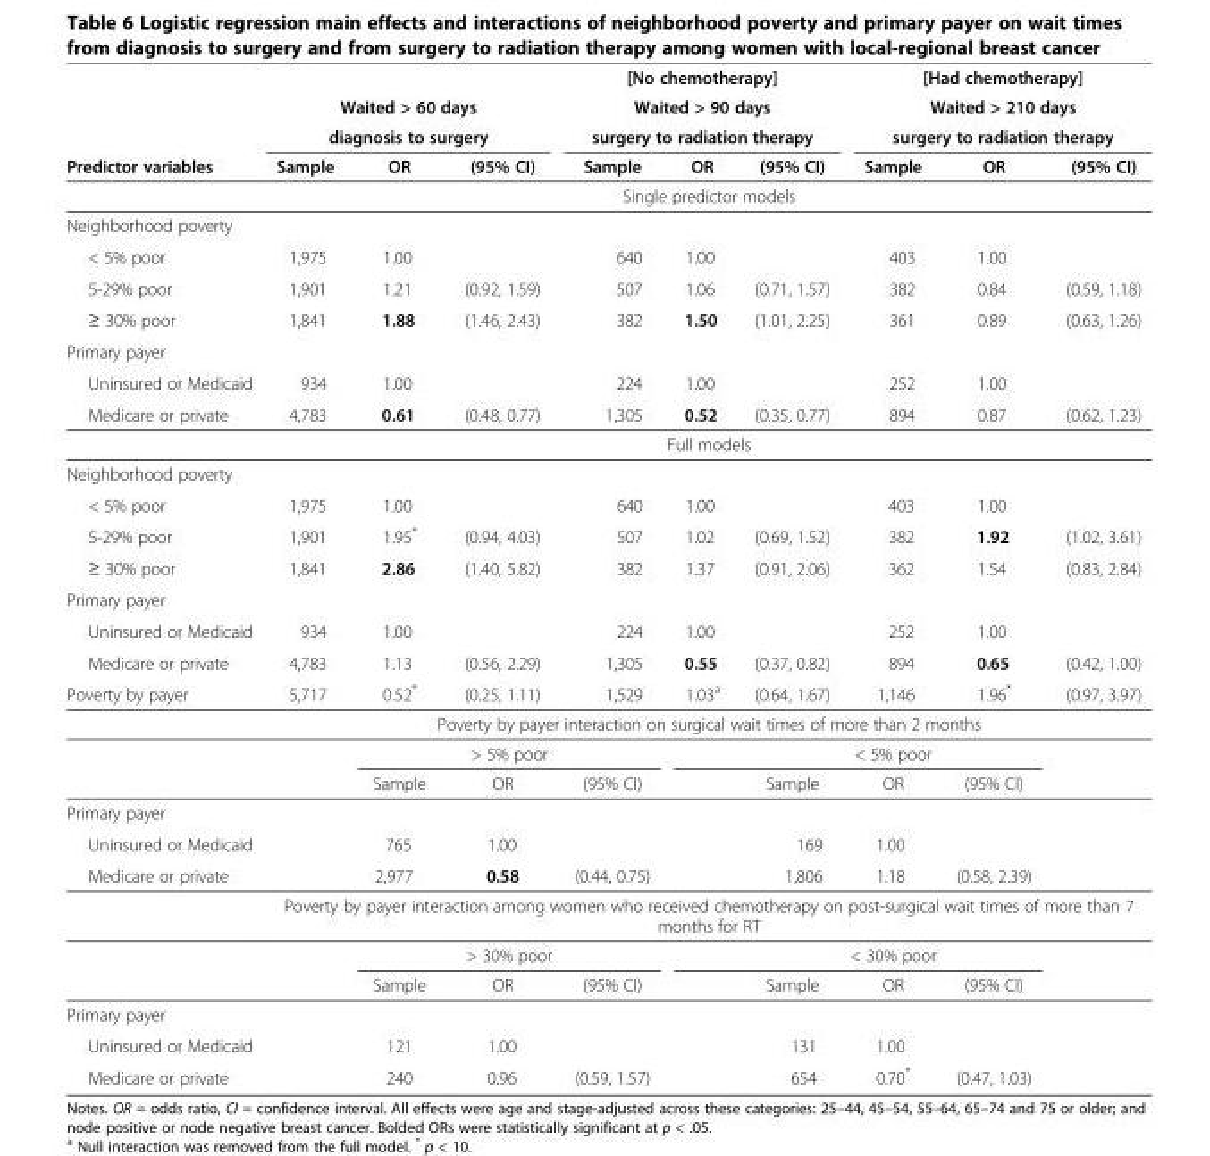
<table><thead><tr><td rowspan="4">Predictor variables</td><td></td><td></td><td></td><td rowspan="3" colspan="3">[No chemotherapy] Waited &gt; 90 days surgery to radiation therapy</td><td rowspan="3" colspan="3">[Had chemotherapy] Waited &gt; 210 days surgery to radiation therapy</td></tr><tr><td rowspan="2" colspan="3">Waited &gt; 60 days diagnosis to surgery</td></tr><tr></tr><tr><td>Sample</td><td>OR</td><td>(95% CI)</td><td>Sample</td><td>OR</td><td>(95% CI)</td><td>Sample</td><td>OR</td><td>(95% CI)</td></tr></thead><tbody><tr><td></td><td colspan="9">Single predictor models</td></tr><tr><td colspan="10">Neighborhood poverty</td></tr><tr><td>&lt; 5% poor</td><td>1,975</td><td>1.00</td><td></td><td>640</td><td>1.00</td><td></td><td>403</td><td>1.00</td><td></td></tr><tr><td>5-29% poor</td><td>1,901</td><td>1.21</td><td>(0.92, 1.59)</td><td>507</td><td>1.06</td><td>(0.71, 1.57)</td><td>382</td><td>0.84</td><td>(0.59, 1.18)</td></tr><tr><td>≥ 30% poor</td><td>1,841</td><td>1.88</td><td>(1.46, 2.43)</td><td>382</td><td>1.50</td><td>(1.01, 2.25)</td><td>361</td><td>0.89</td><td>(0.63, 1.26)</td></tr><tr><td colspan="10">Primary payer</td></tr><tr><td>Uninsured or Medicaid</td><td>934</td><td>1.00</td><td></td><td>224</td><td>1.00</td><td></td><td>252</td><td>1.00</td><td></td></tr><tr><td rowspan="2">Medicare or private</td><td>4,783</td><td>0.61</td><td>(0.48, 0.77)</td><td>1,305</td><td>0.52</td><td>(0.35, 0.77)</td><td>894</td><td>0.87</td><td>(0.62, 1.23)</td></tr><tr><td colspan="9">Full models</td></tr><tr><td colspan="10">Neighborhood poverty</td></tr><tr><td>&lt; 5% poor</td><td>1,975</td><td>1.00</td><td></td><td>640</td><td>1.00</td><td></td><td>403</td><td>1.00</td><td></td></tr><tr><td>5-29% poor</td><td>1,901</td><td>1.95*</td><td>(0.94, 4.03)</td><td>507</td><td>1.02</td><td>(0.69, 1.52)</td><td>382</td><td>1.92</td><td>(1.02, 3.61)</td></tr><tr><td>≥ 30% poor</td><td>1,841</td><td>2.86</td><td>(1.40, 5.82)</td><td>382</td><td>1.37</td><td>(0.91, 2.06)</td><td>362</td><td>1.54</td><td>(0.83, 2.84)</td></tr><tr><td colspan="10">Primary payer</td></tr><tr><td>Uninsured or Medicaid</td><td>934</td><td>1.00</td><td></td><td>224</td><td>1.00</td><td></td><td>252</td><td>1.00</td><td></td></tr><tr><td>Medicare or private</td><td>4,783</td><td>1.13</td><td>(0.56, 2.29)</td><td>1,305</td><td>0.55</td><td>(0.37, 0.82)</td><td>894</td><td>0.65</td><td>(0.42, 1.00)</td></tr><tr><td rowspan="4">Poverty by payer</td><td>5,717</td><td>0.52*</td><td>(0.25, 1.11)</td><td>1,529</td><td>1.03<sup>a</sup></td><td>(0.64, 1.67)</td><td>1,146</td><td>1.96*</td><td>(0.97, 3.97)</td></tr><tr><td colspan="9">Poverty by payer interaction on surgical wait times of more than 2 months</td></tr><tr><td></td><td colspan="3">&gt; 5% poor</td><td></td><td colspan="3">&lt; 5% poor</td><td></td></tr><tr><td></td><td>Sample</td><td>OR</td><td>(95% CI)</td><td></td><td>Sample</td><td>OR</td><td>(95% CI)</td><td></td></tr><tr><td colspan="10">Primary payer</td></tr><tr><td>Uninsured or Medicaid</td><td></td><td>765</td><td>1.00</td><td></td><td></td><td>169</td><td>1.00</td><td></td><td></td></tr><tr><td rowspan="4">Medicare or private</td><td></td><td>2,977</td><td>0.58</td><td>(0.44, 0.75)</td><td></td><td>1,806</td><td>1.18</td><td>(0.58, 2.39)</td><td></td></tr><tr><td colspan="9">Poverty by payer interaction among women who received chemotherapy on post-surgical wait times of more than 7 months for RT</td></tr><tr><td></td><td colspan="3">&gt; 30% poor</td><td></td><td colspan="3">&lt; 30% poor</td><td></td></tr><tr><td></td><td>Sample</td><td>OR</td><td>(95% CI)</td><td></td><td>Sample</td><td>OR</td><td>(95% CI)</td><td></td></tr><tr><td colspan="10">Primary payer</td></tr><tr><td>Uninsured or Medicaid</td><td></td><td>121</td><td>1.00</td><td></td><td></td><td>131</td><td>1.00</td><td></td><td></td></tr><tr><td>Medicare or private</td><td></td><td>240</td><td>0.96</td><td>(0.59, 1.57)</td><td></td><td>654</td><td>0.70*</td><td>(0.47, 1.03)</td><td></td></tr></tbody></table>